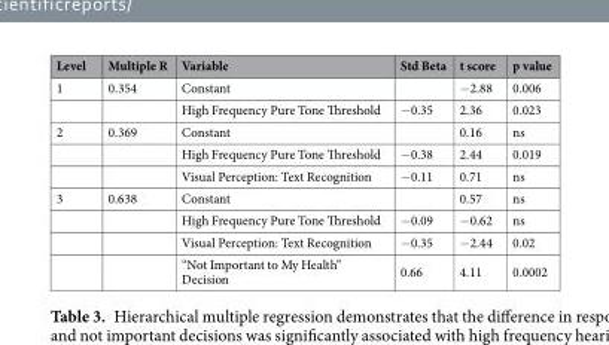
<table><thead><tr><td>Level</td><td>Multiple R</td><td>Variable</td><td>Std Beta</td><td>t score</td><td>p value</td></tr></thead><tbody><tr><td rowspan="2">1</td><td>0.354</td><td>Constant</td><td></td><td>−2.88</td><td>0.006</td></tr><tr><td></td><td>High Frequency Pure Tone Threshold</td><td>−0.35</td><td>2.36</td><td>0.023</td></tr><tr><td rowspan="3">2</td><td>0.369</td><td>Constant</td><td></td><td>0.16</td><td>ns</td></tr><tr><td></td><td>High Frequency Pure Tone Threshold</td><td>−0.38</td><td>2.44</td><td>0.019</td></tr><tr><td></td><td>Visual Perception: Text Recognition</td><td>−0.11</td><td>0.71</td><td>ns</td></tr><tr><td rowspan="4">3</td><td>0.638</td><td>Constant</td><td></td><td>0.57</td><td>ns</td></tr><tr><td></td><td>High Frequency Pure Tone Threshold</td><td>−0.09</td><td>−0.62</td><td>ns</td></tr><tr><td></td><td>Visual Perception: Text Recognition</td><td>−0.35</td><td>−2.44</td><td>0.02</td></tr><tr><td></td><td>“Not Important to My Health” Decision</td><td>0.66</td><td>4.11</td><td>0.0002</td></tr></tbody></table>